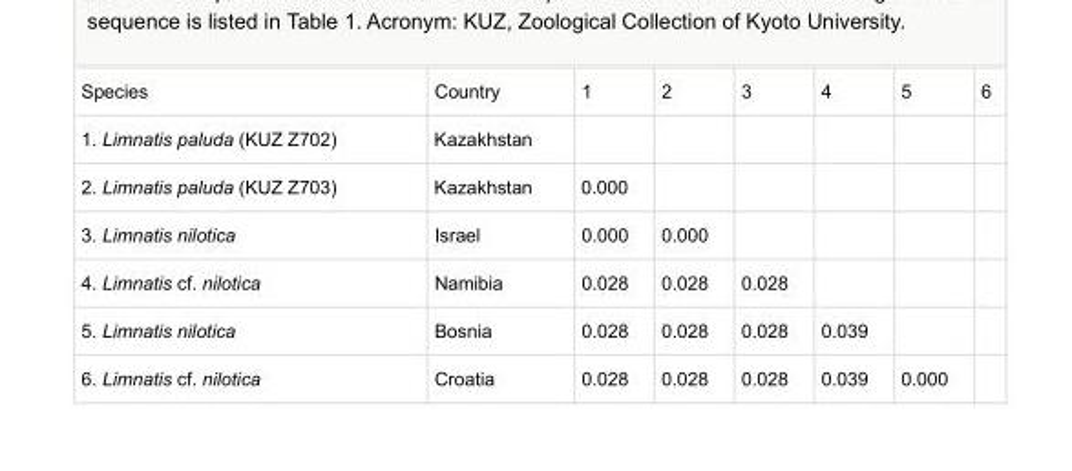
<table><tbody><tr><td>Species</td><td>Country</td><td>1</td><td>2</td><td>3</td><td>4</td><td>5</td><td>6</td></tr><tr><td>1. Limnatis paluda (KUZ Z702)</td><td>Kazakhstan</td><td></td><td></td><td></td><td></td><td></td><td></td></tr><tr><td>2. Limnatis paluda (KUZ Z703)</td><td>Kazakhstan</td><td>0.000</td><td></td><td></td><td></td><td></td><td></td></tr><tr><td>3. Limnatis nilotica</td><td>Israel</td><td>0.000</td><td>0.000</td><td></td><td></td><td></td><td></td></tr><tr><td>4. Limnatis cf. nilotica</td><td>Namibia</td><td>0.028</td><td>0.028</td><td>0.028</td><td></td><td></td><td></td></tr><tr><td>5. Limnatis nilotica</td><td>Bosnia</td><td>0.028</td><td>0.028</td><td>0.028</td><td>0.039</td><td></td><td></td></tr><tr><td>6. Limnatis cf. nilotica</td><td>Croatia</td><td>0.028</td><td>0.028</td><td>0.028</td><td>0.039</td><td>0.000</td><td></td></tr></tbody></table>